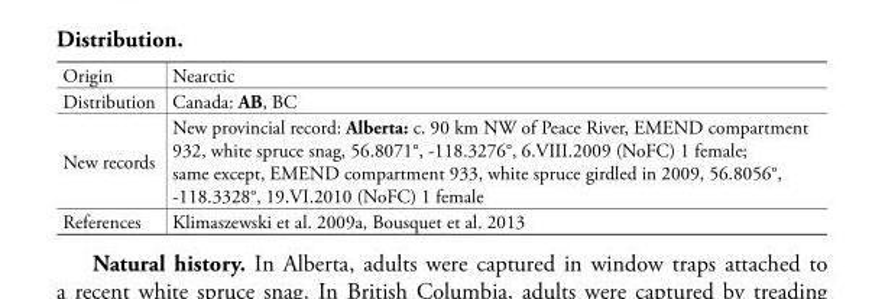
<table><tbody><tr><td>Origin</td><td>Nearctic</td></tr><tr><td>Distribution</td><td>Canada: AB, BC</td></tr><tr><td>New records</td><td>New provincial record: Alberta: c. 90 km NW of Peace River, EMEND compartment 932, white spruce snag, 56.8071°, -118.3276°, 6.VIII.2009 (NoFC) 1 female; same except, EMEND compartment 933, white spruce girdled in 2009, 56.8056°, -118.3328°, 19.VI.2010 (NoFC) 1 female</td></tr><tr><td>References</td><td>Klimaszewski et al. 2009a, Bousquet et al. 2013</td></tr></tbody></table>